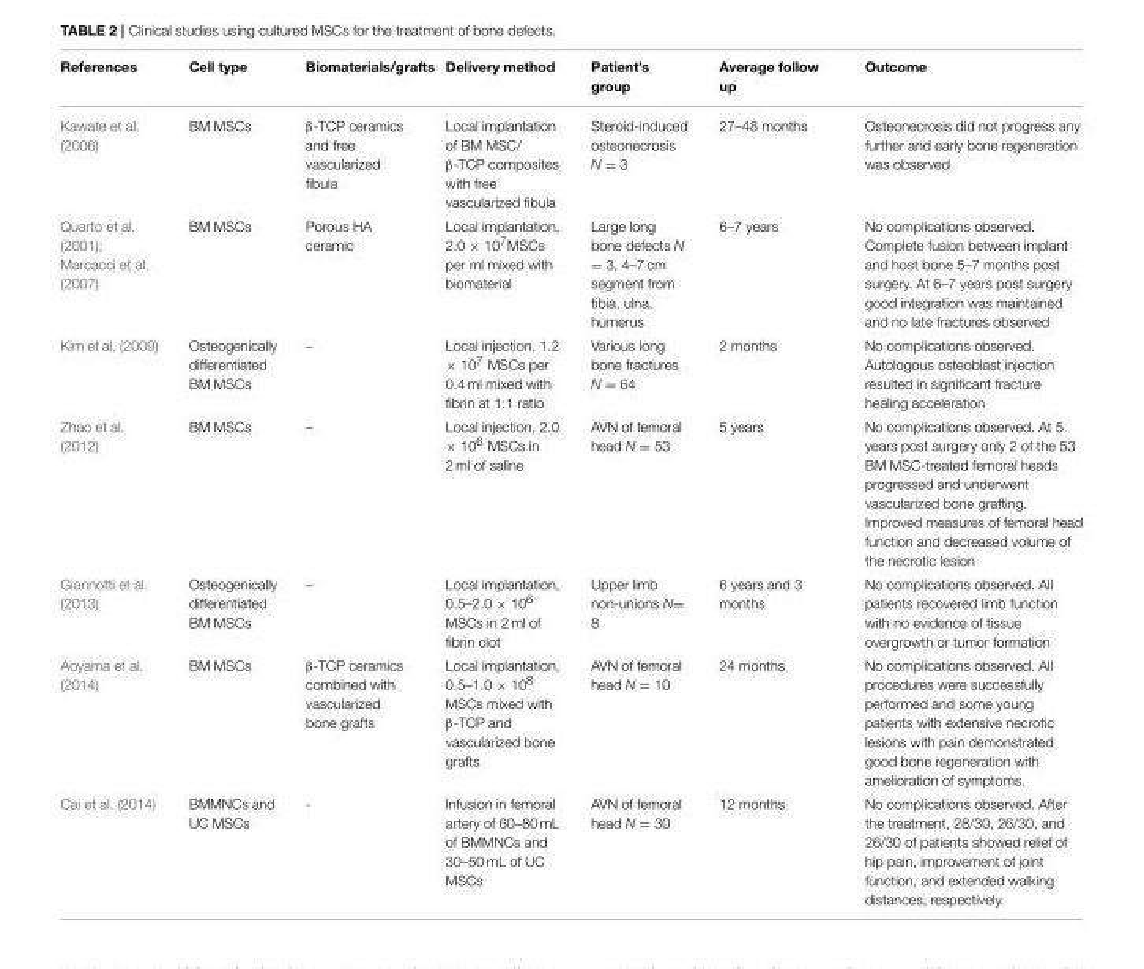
<table><thead><tr><td>References</td><td>Cell type</td><td>Biomaterials/grafts</td><td>Delivery method</td><td>Patient’s group</td><td>Average follow up</td><td>Outcome</td></tr></thead><tbody><tr><td>Kawate et al. (2006)</td><td>BM MSCs</td><td>β-TCP ceramics and free vascularized fibula</td><td>Local implantation of BM MSC/ β-TCP composites with free vascularized fibula</td><td>Steroid-induced osteonecrosis N = 3</td><td>27–48 months</td><td>Osteonecrosis did not progress any further and early bone regeneration was observed</td></tr><tr><td>Quarto et al. (2001); Marcacci et al. (2007)</td><td>BM MSCs</td><td>Porous HA ceramic</td><td>Local implantation, 2.0 × 10<sup>7</sup>MSCs per ml mixed with biomaterial</td><td>Large long bone defects N = 3, 4–7 cm segment from tibia, ulna, humerus</td><td>6–7 years</td><td>No complications observed. Complete fusion between implant and host bone 5–7 months post surgery. At 6–7 years post surgery good integration was maintained and no late fractures observed</td></tr><tr><td>Kim et al. (2009)</td><td>Osteogenically differentiated BM MSCs</td><td>–</td><td>Local injection, 1.2 × 10<sup>7</sup> MSCs per 0.4 ml mixed with fibrin at 1:1 ratio</td><td>Various long bone fractures N = 64</td><td>2 months</td><td>No complications observed. Autologous osteoblast injection resulted in significant fracture healing acceleration</td></tr><tr><td>Zhao et al. (2012)</td><td>BM MSCs</td><td>–</td><td>Local injection, 2.0 × 10<sup>6</sup> MSCs in 2 ml of saline</td><td>AVN of femoral head N = 53</td><td>5 years</td><td>No complications observed. At 5 years post surgery only 2 of the 53 BM MSC-treated femoral heads progressed and underwent vascularized bone grafting. Improved measures of femoral head function and decreased volume of the necrotic lesion</td></tr><tr><td>Giannotti et al. (2013)</td><td>Osteogenically differentiated BM MSCs</td><td>–</td><td>Local implantation, 0.5–2.0 × 10<sup>6</sup> MSCs in 2 ml of fibrin clot</td><td>Upper limb non-unions N= 8</td><td>6 years and 3 months</td><td>No complications observed. All patients recovered limb function with no evidence of tissue overgrowth or tumor formation</td></tr><tr><td>Aoyama et al. (2014)</td><td>BM MSCs</td><td>β-TCP ceramics combined with vascularized bone grafts</td><td>Local implantation, 0.5–1.0 × 10<sup>8</sup> MSCs mixed with β-TCP and vascularized bone grafts</td><td>AVN of femoral head N = 10</td><td>24 months</td><td>No complications observed. All procedures were successfully performed and some young patients with extensive necrotic lesions with pain demonstrated good bone regeneration with amelioration of symptoms.</td></tr><tr><td>Cai et al. (2014)</td><td>BMMNCs and UC MSCs</td><td>-</td><td>Infusion in femoral artery of 60–80 mL of BMMNCs and 30–50 mL of UC MSCs</td><td>AVN of femoral head N = 30</td><td>12 months</td><td>No complications observed. After the treatment, 28/30, 26/30, and 26/30 of patients showed relief of hip pain, improvement of joint function, and extended walking distances, respectively.</td></tr></tbody></table>